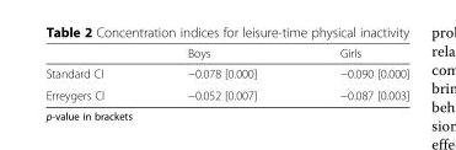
<table><thead><tr><td></td><td>Boys</td><td>Girls</td></tr></thead><tbody><tr><td>Standard CI</td><td>−0.078 [0.000]</td><td>−0.090 [0.000]</td></tr><tr><td>Erreygers CI</td><td>−0.052 [0.007]</td><td>−0.087 [0.003]</td></tr></tbody></table>